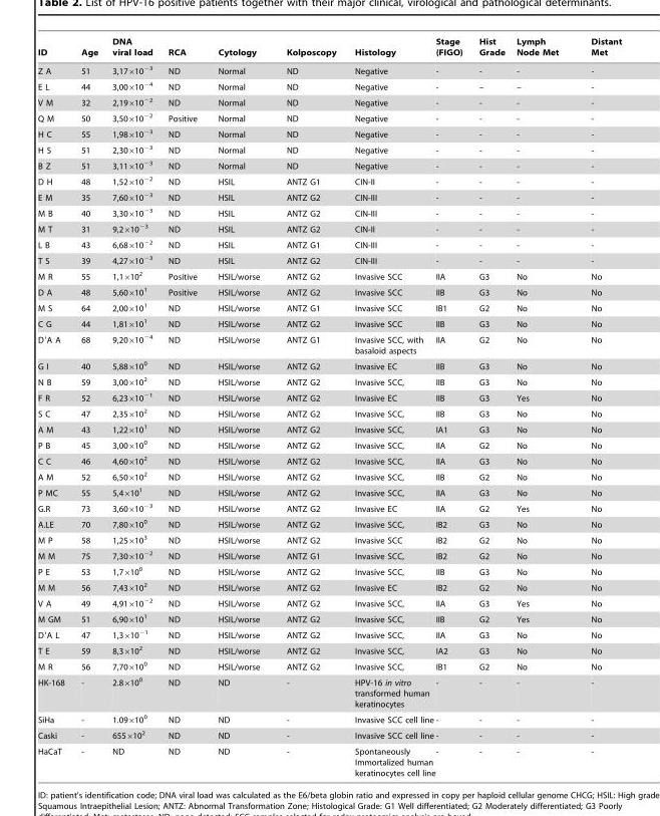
<table><thead><tr><td>ID</td><td>Age</td><td>DNA viral load</td><td>RCA</td><td>Cytology</td><td>Kolposcopy</td><td>Histology</td><td>Stage (FIGO)</td><td>Hist Grade</td><td>Lymph Node Met</td><td>Distant Met</td></tr></thead><tbody><tr><td>Z A</td><td>51</td><td>3,17×10<sup>−3</sup></td><td>ND</td><td>Normal</td><td>ND</td><td>Negative</td><td>-</td><td>-</td><td>-</td><td>-</td></tr><tr><td>E L</td><td>44</td><td>3,00×10<sup>−4</sup></td><td>ND</td><td>Normal</td><td>ND</td><td>Negative</td><td>-</td><td>–</td><td>–</td><td>-</td></tr><tr><td>V M</td><td>32</td><td>2,19×10<sup>−2</sup></td><td>ND</td><td>Normal</td><td>ND</td><td>Negative</td><td>-</td><td>-</td><td>-</td><td>-</td></tr><tr><td>Q M</td><td>50</td><td>3,50×10<sup>−2</sup></td><td>Positive</td><td>Normal</td><td>ND</td><td>Negative</td><td>-</td><td>-</td><td>-</td><td>-</td></tr><tr><td>H C</td><td>55</td><td>1,98×10<sup>−3</sup></td><td>ND</td><td>Normal</td><td>ND</td><td>Negative</td><td>-</td><td>-</td><td>-</td><td>-</td></tr><tr><td>H S</td><td>51</td><td>2,30×10<sup>−3</sup></td><td>ND</td><td>Normal</td><td>ND</td><td>Negative</td><td>-</td><td>-</td><td>-</td><td>-</td></tr><tr><td>B Z</td><td>51</td><td>3,11×10<sup>−3</sup></td><td>ND</td><td>Normal</td><td>ND</td><td>Negative</td><td>-</td><td>-</td><td>-</td><td>-</td></tr><tr><td>D H</td><td>48</td><td>1,52×10<sup>−2</sup></td><td>ND</td><td>HSIL</td><td>ANTZ G1</td><td>CIN-II</td><td>-</td><td>-</td><td>-</td><td>-</td></tr><tr><td>E M</td><td>35</td><td>7,60×10<sup>−3</sup></td><td>ND</td><td>HSIL</td><td>ANTZ G2</td><td>CIN-III</td><td>-</td><td>-</td><td>-</td><td>-</td></tr><tr><td>M B</td><td>40</td><td>3,30×10<sup>−3</sup></td><td>ND</td><td>HSIL</td><td>ANTZ G2</td><td>CIN-III</td><td>-</td><td>-</td><td>-</td><td>-</td></tr><tr><td>M T</td><td>31</td><td>9,2×10<sup>−3</sup></td><td>ND</td><td>HSIL</td><td>ANTZ G2</td><td>CIN-II</td><td>-</td><td>-</td><td>-</td><td>-</td></tr><tr><td>L B</td><td>43</td><td>6,68×10<sup>−2</sup></td><td>ND</td><td>HSIL</td><td>ANTZ G1</td><td>CIN-III</td><td>-</td><td>-</td><td>-</td><td>-</td></tr><tr><td>T S</td><td>39</td><td>4,27×10<sup>−3</sup></td><td>ND</td><td>HSIL</td><td>ANTZ G2</td><td>CIN-III</td><td>-</td><td>-</td><td>-</td><td>-</td></tr><tr><td>M R</td><td>55</td><td>1,1×10<sup>2</sup></td><td>Positive</td><td>HSIL/worse</td><td>ANTZ G2</td><td>Invasive SCC</td><td>IIA</td><td>G3</td><td>No</td><td>No</td></tr><tr><td>D A</td><td>48</td><td>5,60×10<sup>1</sup></td><td>Positive</td><td>HSIL/worse</td><td>ANTZ G2</td><td>Invasive SCC</td><td>IIB</td><td>G3</td><td>No</td><td>No</td></tr><tr><td>M S</td><td>64</td><td>2,00×10<sup>1</sup></td><td>ND</td><td>HSIL/worse</td><td>ANTZ G1</td><td>Invasive SCC</td><td>IB1</td><td>G2</td><td>No</td><td>No</td></tr><tr><td>C G</td><td>44</td><td>1,81×10<sup>1</sup></td><td>ND</td><td>HSIL/worse</td><td>ANTZ G2</td><td>Invasive SCC</td><td>IIB</td><td>G3</td><td>No</td><td>No</td></tr><tr><td>D′A A</td><td>68</td><td>9,20×10<sup>−4</sup></td><td>ND</td><td>HSIL/worse</td><td>ANTZ G1</td><td>Invasive SCC, with basaloid aspects</td><td>IIA</td><td>G2</td><td>No</td><td>No</td></tr><tr><td>G I</td><td>40</td><td>5,88×10<sup>0</sup></td><td>ND</td><td>HSIL/worse</td><td>ANTZ G2</td><td>Invasive EC</td><td>IIB</td><td>G3</td><td>No</td><td>No</td></tr><tr><td>N B</td><td>59</td><td>3,00×10<sup>2</sup></td><td>ND</td><td>HSIL/worse</td><td>ANTZ G2</td><td>Invasive SCC,</td><td>IIB</td><td>G3</td><td>No</td><td>No</td></tr><tr><td>F R</td><td>52</td><td>6,23×10<sup>−1</sup></td><td>ND</td><td>HSIL/worse</td><td>ANTZ G2</td><td>Invasive EC</td><td>IIB</td><td>G3</td><td>Yes</td><td>No</td></tr><tr><td>S C</td><td>47</td><td>2,35×10<sup>2</sup></td><td>ND</td><td>HSIL/worse</td><td>ANTZ G2</td><td>Invasive SCC,</td><td>IIB</td><td>G3</td><td>No</td><td>No</td></tr><tr><td>A M</td><td>43</td><td>1,22×10<sup>1</sup></td><td>ND</td><td>HSIL/worse</td><td>ANTZ G2</td><td>Invasive SCC,</td><td>IA1</td><td>G3</td><td>No</td><td>No</td></tr><tr><td>P B</td><td>45</td><td>3,00×10<sup>0</sup></td><td>ND</td><td>HSIL/worse</td><td>ANTZ G2</td><td>Invasive SCC,</td><td>IIA</td><td>G2</td><td>No</td><td>No</td></tr><tr><td>C C</td><td>46</td><td>4,60×10<sup>2</sup></td><td>ND</td><td>HSIL/worse</td><td>ANTZ G2</td><td>Invasive SCC,</td><td>IIA</td><td>G3</td><td>No</td><td>No</td></tr><tr><td>A M</td><td>52</td><td>6,50×10<sup>2</sup></td><td>ND</td><td>HSIL/worse</td><td>ANTZ G2</td><td>Invasive SCC,</td><td>IIB</td><td>G2</td><td>No</td><td>No</td></tr><tr><td>P MC</td><td>55</td><td>5,4×10<sup>1</sup></td><td>ND</td><td>HSIL/worse</td><td>ANTZ G2</td><td>Invasive SCC,</td><td>IIA</td><td>G3</td><td>No</td><td>No</td></tr><tr><td>G.R</td><td>73</td><td>3,60×10<sup>−3</sup></td><td>ND</td><td>HSIL/worse</td><td>ANTZ G2</td><td>Invasive EC</td><td>IIA</td><td>G2</td><td>Yes</td><td>No</td></tr><tr><td>A.LE</td><td>70</td><td>7,80×10<sup>0</sup></td><td>ND</td><td>HSIL/worse</td><td>ANTZ G2</td><td>Invasive SCC,</td><td>IB2</td><td>G3</td><td>No</td><td>No</td></tr><tr><td>M P</td><td>58</td><td>1,25×10<sup>3</sup></td><td>ND</td><td>HSIL/worse</td><td>ANTZ G2</td><td>Invasive SCC</td><td>IB2</td><td>G2</td><td>No</td><td>No</td></tr><tr><td>M M</td><td>75</td><td>7,30×10<sup>−2</sup></td><td>ND</td><td>HSIL/worse</td><td>ANTZ G1</td><td>Invasive SCC,</td><td>IB2</td><td>G2</td><td>No</td><td>No</td></tr><tr><td>P E</td><td>53</td><td>1,7×10<sup>0</sup></td><td>ND</td><td>HSIL/worse</td><td>ANTZ G2</td><td>Invasive SCC,</td><td>IIB</td><td>G3</td><td>No</td><td>No</td></tr><tr><td>M M</td><td>56</td><td>7,43×10<sup>2</sup></td><td>ND</td><td>HSIL/worse</td><td>ANTZ G2</td><td>Invasive EC</td><td>IB2</td><td>G2</td><td>No</td><td>No</td></tr><tr><td>V A</td><td>49</td><td>4,91×10<sup>−2</sup></td><td>ND</td><td>HSIL/worse</td><td>ANTZ G2</td><td>Invasive SCC,</td><td>IIA</td><td>G3</td><td>Yes</td><td>No</td></tr><tr><td>M GM</td><td>51</td><td>6,90×10<sup>1</sup></td><td>ND</td><td>HSIL/worse</td><td>ANTZ G2</td><td>Invasive SCC,</td><td>IIB</td><td>G2</td><td>Yes</td><td>No</td></tr><tr><td>D′A L</td><td>47</td><td>1,3×10<sup>−1</sup></td><td>ND</td><td>HSIL/worse</td><td>ANTZ G2</td><td>Invasive SCC,</td><td>IIA</td><td>G3</td><td>No</td><td>No</td></tr><tr><td>T E</td><td>59</td><td>8,3×10<sup>2</sup></td><td>ND</td><td>HSIL/worse</td><td>ANTZ G2</td><td>Invasive SCC,</td><td>IA2</td><td>G3</td><td>No</td><td>No</td></tr><tr><td>M R</td><td>56</td><td>7,70×10<sup>0</sup></td><td>ND</td><td>HSIL/worse</td><td>ANTZ G2</td><td>Invasive SCC,</td><td>IB1</td><td>G2</td><td>No</td><td>No</td></tr><tr><td>HK-168</td><td>-</td><td>2.8×10<sup>0</sup></td><td>ND</td><td>ND</td><td>-</td><td>HPV-16 in vitro transformed human keratinocytes</td><td>-</td><td>-</td><td>-</td><td>-</td></tr><tr><td>SiHa</td><td>-</td><td>1.09×10<sup>0</sup></td><td>ND</td><td>ND</td><td>-</td><td>Invasive SCC cell line</td><td>-</td><td>-</td><td>-</td><td>-</td></tr><tr><td>Caski</td><td>-</td><td>655×10<sup>2</sup></td><td>ND</td><td>ND</td><td>-</td><td>Invasive SCC cell line</td><td>-</td><td>-</td><td>-</td><td>-</td></tr><tr><td>HaCaT</td><td>-</td><td>ND</td><td>ND</td><td>ND</td><td>-</td><td>Spontaneously Immortalized human keratinocytes cell line</td><td>-</td><td>-</td><td>-</td><td>-</td></tr></tbody></table>